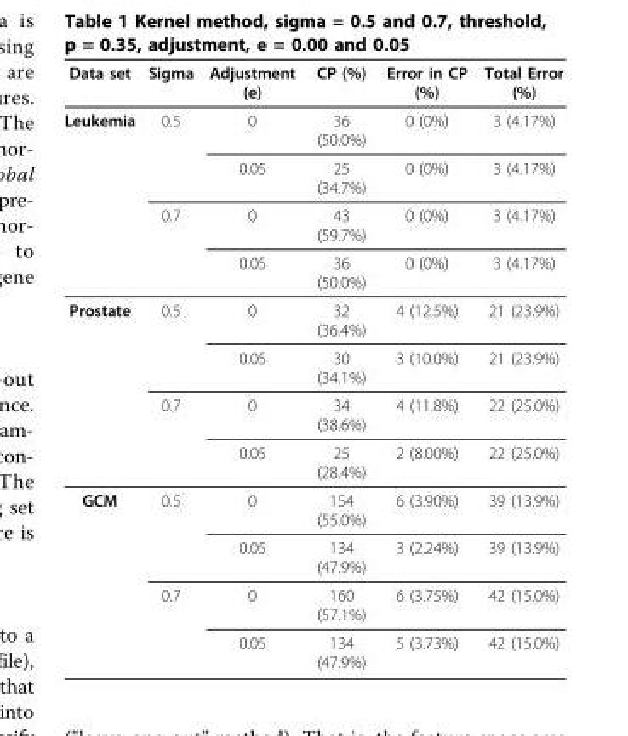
<table><thead><tr><td>Data set</td><td>Sigma</td><td>Adjustment (e)</td><td>CP (%)</td><td>Error in CP (%)</td><td>Total Error (%)</td></tr></thead><tbody><tr><td rowspan="4">Leukemia</td><td>0.5</td><td>0</td><td>36 (50.0%)</td><td>0 (0%)</td><td>3 (4.17%)</td></tr><tr><td></td><td>0.05</td><td>25 (34.7%)</td><td>0 (0%)</td><td>3 (4.17%)</td></tr><tr><td>0.7</td><td>0</td><td>43 (59.7%)</td><td>0 (0%)</td><td>3 (4.17%)</td></tr><tr><td></td><td>0.05</td><td>36 (50.0%)</td><td>0 (0%)</td><td>3 (4.17%)</td></tr><tr><td rowspan="4">Prostate</td><td>0.5</td><td>0</td><td>32 (36.4%)</td><td>4 (12.5%)</td><td>21 (23.9%)</td></tr><tr><td></td><td>0.05</td><td>30 (34.1%)</td><td>3 (10.0%)</td><td>21 (23.9%)</td></tr><tr><td>0.7</td><td>0</td><td>34 (38.6%)</td><td>4 (11.8%)</td><td>22 (25.0%)</td></tr><tr><td></td><td>0.05</td><td>25 (28.4%)</td><td>2 (8.00%)</td><td>22 (25.0%)</td></tr><tr><td rowspan="4">GCM</td><td>0.5</td><td>0</td><td>154 (55.0%)</td><td>6 (3.90%)</td><td>39 (13.9%)</td></tr><tr><td></td><td>0.05</td><td>134 (47.9%)</td><td>3 (2.24%)</td><td>39 (13.9%)</td></tr><tr><td>0.7</td><td>0</td><td>160 (57.1%)</td><td>6 (3.75%)</td><td>42 (15.0%)</td></tr><tr><td></td><td>0.05</td><td>134 (47.9%)</td><td>5 (3.73%)</td><td>42 (15.0%)</td></tr></tbody></table>